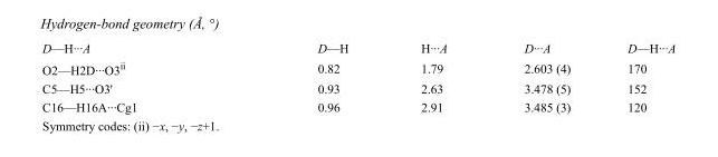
<table><tbody><tr><td>D—H···A</td><td>D—H</td><td>H···A</td><td>D···A</td><td>D—H···A</td></tr><tr><td>O2—H2D···O3<sup>ii</sup></td><td>0.82</td><td>1.79</td><td>2.603 (4)</td><td>170</td></tr><tr><td>C5—H5···O3&#x27;</td><td>0.93</td><td>2.63</td><td>3.478 (5)</td><td>152</td></tr><tr><td>C16—H16A···Cg1</td><td>0.96</td><td>2.91</td><td>3.485 (3)</td><td>120</td></tr></tbody></table>